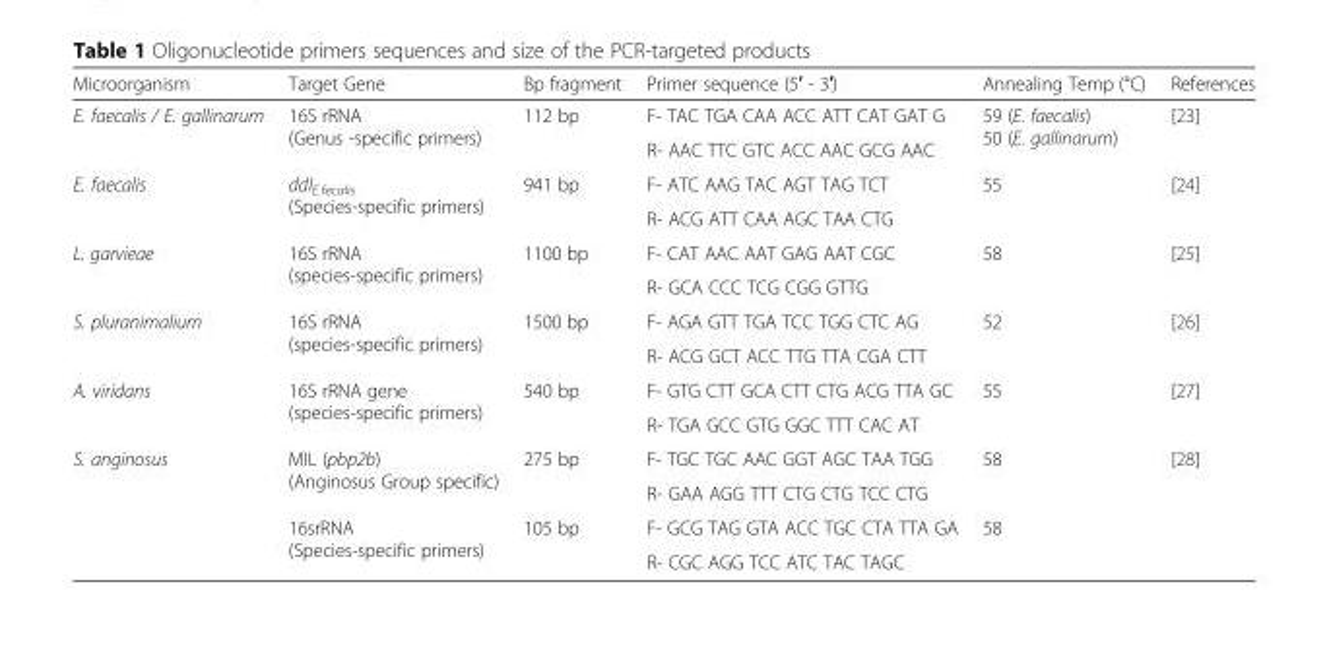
<table><thead><tr><td>Microorganism</td><td>Target Gene</td><td>Bp fragment</td><td>Primer sequence (5′ - 3′)</td><td>Annealing Temp (°C)</td><td>References</td></tr></thead><tbody><tr><td rowspan="2">E. faecalis / E. gallinarum</td><td rowspan="2">16S rRNA (Genus -specific primers)</td><td rowspan="2">112 bp</td><td>F- TAC TGA CAA ACC ATT CAT GAT G</td><td rowspan="2">59 (E. faecalis) 50 (E. gallinarum)</td><td rowspan="2">[23]</td></tr><tr><td>R- AAC TTC GTC ACC AAC GCG AAC</td></tr><tr><td rowspan="2">E. faecalis</td><td rowspan="2">ddl<sub>E.fecalis</sub> (Species-specific primers)</td><td rowspan="2">941 bp</td><td>F- ATC AAG TAC AGT TAG TCT</td><td rowspan="2">55</td><td rowspan="2">[24]</td></tr><tr><td>R- ACG ATT CAA AGC TAA CTG</td></tr><tr><td rowspan="2">L. garvieae</td><td rowspan="2">16S rRNA (species-specific primers)</td><td rowspan="2">1100 bp</td><td>F- CAT AAC AAT GAG AAT CGC</td><td rowspan="2">58</td><td rowspan="2">[25]</td></tr><tr><td>R- GCA CCC TCG CGG GTTG</td></tr><tr><td rowspan="2">S. pluranimalium</td><td rowspan="2">16S rRNA (species-specific primers)</td><td rowspan="2">1500 bp</td><td>F- AGA GTT TGA TCC TGG CTC AG</td><td rowspan="2">52</td><td rowspan="2">[26]</td></tr><tr><td>R- ACG GCT ACC TTG TTA CGA CTT</td></tr><tr><td rowspan="2">A. viridans</td><td rowspan="2">16S rRNA gene (species-specific primers)</td><td rowspan="2">540 bp</td><td>F- GTG CTT GCA CTT CTG ACG TTA GC</td><td rowspan="2">55</td><td rowspan="2">[27]</td></tr><tr><td>R- TGA GCC GTG GGC TTT CAC AT</td></tr><tr><td rowspan="4">S. anginosus</td><td rowspan="2">MIL (pbp2b) (Anginosus Group specific)</td><td rowspan="2">275 bp</td><td>F- TGC TGC AAC GGT AGC TAA TGG</td><td rowspan="2">58</td><td rowspan="4">[28]</td></tr><tr><td>R- GAA AGG TTT CTG CTG TCC CTG</td></tr><tr><td rowspan="2">16srRNA (Species-specific primers)</td><td rowspan="2">105 bp</td><td>F- GCG TAG GTA ACC TGC CTA TTA GA</td><td rowspan="2">58</td></tr><tr><td>R- CGC AGG TCC ATC TAC TAGC</td></tr></tbody></table>